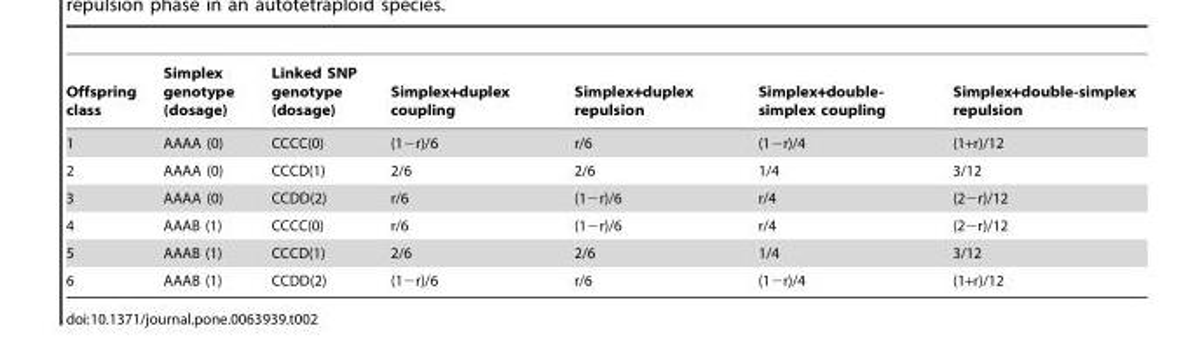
<table><thead><tr><td>Offspring class</td><td>Simplex genotype (dosage)</td><td>Linked SNP genotype (dosage)</td><td>Simplex+duplex coupling</td><td>Simplex+duplex repulsion</td><td>Simplex+double- simplex coupling</td><td>Simplex+double-simplex repulsion</td></tr></thead><tbody><tr><td>1</td><td>AAAA (0)</td><td>CCCC(0)</td><td>(1−r)/6</td><td>r/6</td><td>(1−r)/4</td><td>(1+r)/12</td></tr><tr><td>2</td><td>AAAA (0)</td><td>CCCD(1)</td><td>2/6</td><td>2/6</td><td>1/4</td><td>3/12</td></tr><tr><td>3</td><td>AAAA (0)</td><td>CCDD(2)</td><td>r/6</td><td>(1−r)/6</td><td>r/4</td><td>(2−r)/12</td></tr><tr><td>4</td><td>AAAB (1)</td><td>CCCC(0)</td><td>r/6</td><td>(1−r)/6</td><td>r/4</td><td>(2−r)/12</td></tr><tr><td>5</td><td>AAAB (1)</td><td>CCCD(1)</td><td>2/6</td><td>2/6</td><td>1/4</td><td>3/12</td></tr><tr><td>6</td><td>AAAB (1)</td><td>CCDD(2)</td><td>(1−r)/6</td><td>r/6</td><td>(1−r)/4</td><td>(1+r)/12</td></tr></tbody></table>